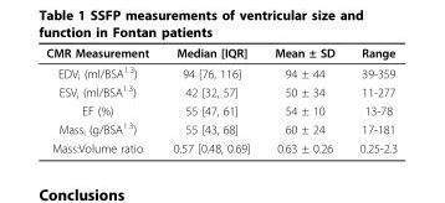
<table><thead><tr><td>CMR Measurement</td><td>Median [IQR]</td><td>Mean ± SD</td><td>Range</td></tr></thead><tbody><tr><td>EDV<sub>i</sub> (ml/BSA<sup>1.3</sup>)</td><td>94 [76, 116]</td><td>94 ± 44</td><td>39-359</td></tr><tr><td>ESV<sub>i</sub> (ml/BSA<sup>1.3</sup>)</td><td>42 [32, 57]</td><td>50 ± 34</td><td>11-277</td></tr><tr><td>EF (%)</td><td>55 [47, 61]</td><td>54 ± 10</td><td>13-78</td></tr><tr><td>Mass<sub>i</sub> (g/BSA<sup>1.3</sup>)</td><td>55 [43, 68]</td><td>60 ± 24</td><td>17-181</td></tr><tr><td>Mass:Volume ratio</td><td>0.57 [0.48, 0.69]</td><td>0.63 ± 0.26</td><td>0.25-2.3</td></tr></tbody></table>